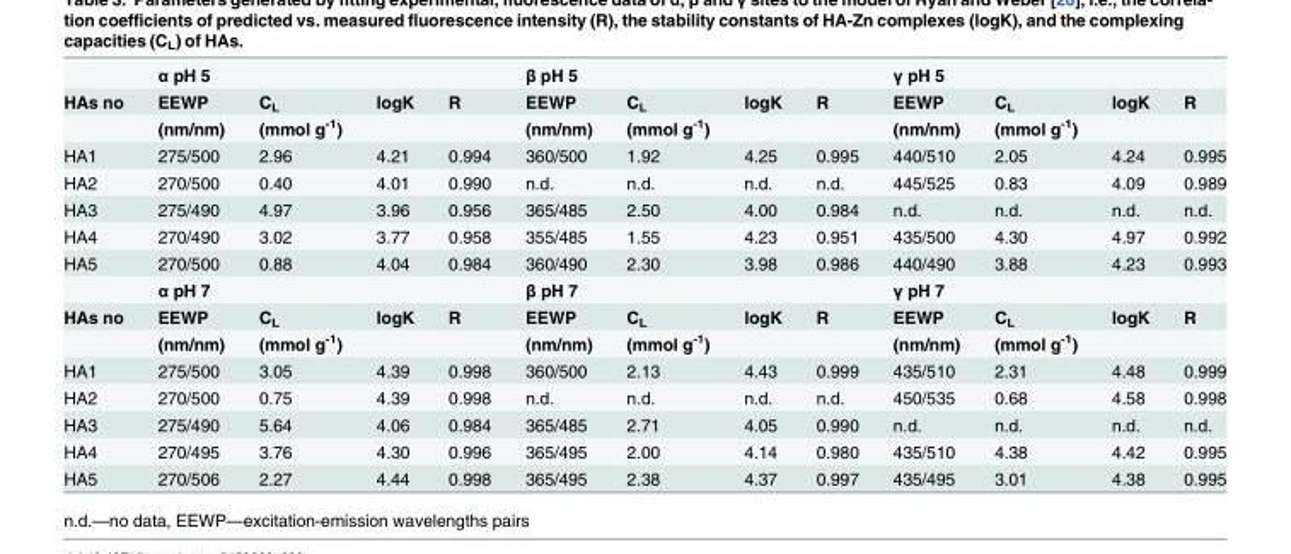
<table><thead><tr><td rowspan="2">HAs no</td><td colspan="4">α pH 5</td><td colspan="4">β pH 5</td><td colspan="4">γ pH 5</td></tr><tr><td>EEWP</td><td>C<sub>L</sub></td><td>logK</td><td>R</td><td>EEWP</td><td>C<sub>L</sub></td><td>logK</td><td>R</td><td>EEWP</td><td>C<sub>L</sub></td><td>logK</td><td>R</td></tr></thead><tbody><tr><td></td><td>(nm/nm)</td><td>(mmol g<sup>-1</sup>)</td><td></td><td></td><td>(nm/nm)</td><td>(mmol g<sup>-1</sup>)</td><td></td><td></td><td>(nm/nm)</td><td>(mmol g<sup>-1</sup>)</td><td></td><td></td></tr><tr><td>HA1</td><td>275/500</td><td>2.96</td><td>4.21</td><td>0.994</td><td>360/500</td><td>1.92</td><td>4.25</td><td>0.995</td><td>440/510</td><td>2.05</td><td>4.24</td><td>0.995</td></tr><tr><td>HA2</td><td>270/500</td><td>0.40</td><td>4.01</td><td>0.990</td><td>n.d.</td><td>n.d.</td><td>n.d.</td><td>n.d.</td><td>445/525</td><td>0.83</td><td>4.09</td><td>0.989</td></tr><tr><td>HA3</td><td>275/490</td><td>4.97</td><td>3.96</td><td>0.956</td><td>365/485</td><td>2.50</td><td>4.00</td><td>0.984</td><td>n.d.</td><td>n.d.</td><td>n.d.</td><td>n.d.</td></tr><tr><td>HA4</td><td>270/490</td><td>3.02</td><td>3.77</td><td>0.958</td><td>355/485</td><td>1.55</td><td>4.23</td><td>0.951</td><td>435/500</td><td>4.30</td><td>4.97</td><td>0.992</td></tr><tr><td rowspan="2">HA5</td><td>270/500</td><td>0.88</td><td>4.04</td><td>0.984</td><td>360/490</td><td>2.30</td><td>3.98</td><td>0.986</td><td>440/490</td><td>3.88</td><td>4.23</td><td>0.993</td></tr><tr><td colspan="4">α pH 7</td><td colspan="4">β pH 7</td><td colspan="4">γ pH 7</td></tr><tr><td rowspan="2">HAs no</td><td>EEWP</td><td>C<sub>L</sub></td><td>logK</td><td>R</td><td>EEWP</td><td>C<sub>L</sub></td><td>logK</td><td>R</td><td>EEWP</td><td>C<sub>L</sub></td><td>logK</td><td>R</td></tr><tr><td>(nm/nm)</td><td>(mmol g<sup>-1</sup>)</td><td></td><td></td><td>(nm/nm)</td><td>(mmol g<sup>-1</sup>)</td><td></td><td></td><td>(nm/nm)</td><td>(mmol g<sup>-1</sup>)</td><td></td><td></td></tr><tr><td>HA1</td><td>275/500</td><td>3.05</td><td>4.39</td><td>0.998</td><td>360/500</td><td>2.13</td><td>4.43</td><td>0.999</td><td>435/510</td><td>2.31</td><td>4.48</td><td>0.999</td></tr><tr><td>HA2</td><td>270/500</td><td>0.75</td><td>4.39</td><td>0.998</td><td>n.d.</td><td>n.d.</td><td>n.d.</td><td>n.d.</td><td>450/535</td><td>0.68</td><td>4.58</td><td>0.998</td></tr><tr><td>HA3</td><td>275/490</td><td>5.64</td><td>4.06</td><td>0.984</td><td>365/485</td><td>2.71</td><td>4.05</td><td>0.990</td><td>n.d.</td><td>n.d.</td><td>n.d.</td><td>n.d.</td></tr><tr><td>HA4</td><td>270/495</td><td>3.76</td><td>4.30</td><td>0.996</td><td>365/495</td><td>2.00</td><td>4.14</td><td>0.980</td><td>435/510</td><td>4.38</td><td>4.42</td><td>0.995</td></tr><tr><td>HA5</td><td>270/506</td><td>2.27</td><td>4.44</td><td>0.998</td><td>365/495</td><td>2.38</td><td>4.37</td><td>0.997</td><td>435/495</td><td>3.01</td><td>4.38</td><td>0.995</td></tr></tbody></table>